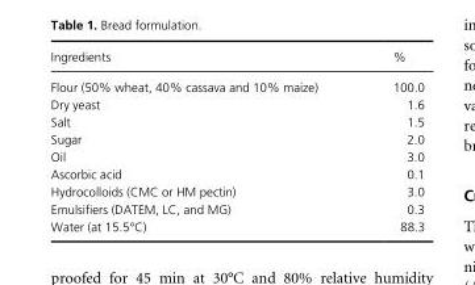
<table><thead><tr><td>Ingredients</td><td>%</td></tr></thead><tbody><tr><td>Flour (50% wheat, 40% cassava and 10% maize)</td><td>100.0</td></tr><tr><td>Dry yeast</td><td>1.6</td></tr><tr><td>Salt</td><td>1.5</td></tr><tr><td>Sugar</td><td>2.0</td></tr><tr><td>Oil</td><td>3.0</td></tr><tr><td>Ascorbic acid</td><td>0.1</td></tr><tr><td>Hydrocolloids (CMC or HM pectin)</td><td>3.0</td></tr><tr><td>Emulsifiers (DATEM, LC, and MG)</td><td>0.3</td></tr><tr><td>Water (at 15.5°C)</td><td>88.3</td></tr></tbody></table>